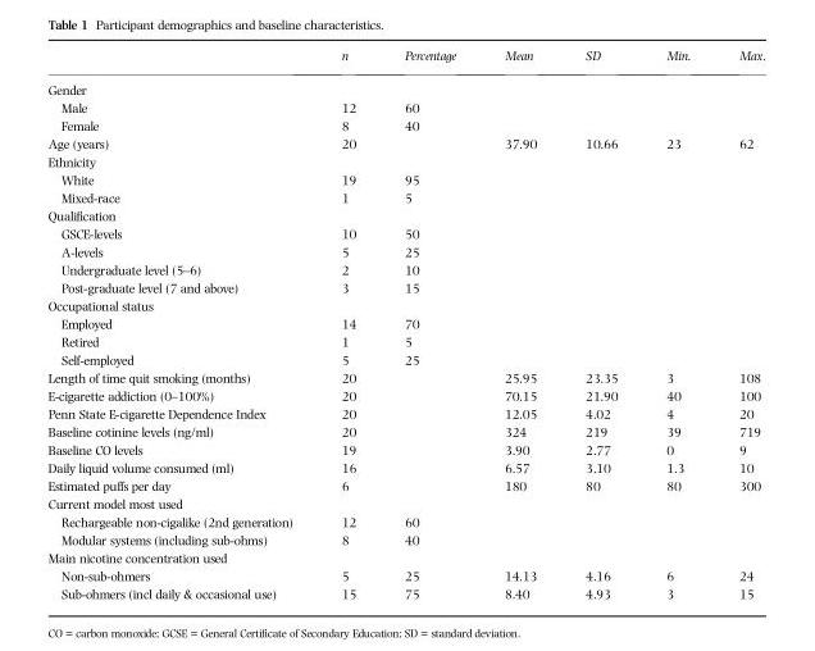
<table><thead><tr><td></td><td>n</td><td>Percentage</td><td>Mean</td><td>SD</td><td>Min.</td><td>Max.</td></tr></thead><tbody><tr><td colspan="7">Gender</td></tr><tr><td>Male</td><td>12</td><td>60</td><td></td><td></td><td></td><td></td></tr><tr><td>Female</td><td>8</td><td>40</td><td></td><td></td><td></td><td></td></tr><tr><td>Age (years)</td><td>20</td><td></td><td>37.90</td><td>10.66</td><td>23</td><td>62</td></tr><tr><td colspan="7">Ethnicity</td></tr><tr><td>White</td><td>19</td><td>95</td><td></td><td></td><td></td><td></td></tr><tr><td>Mixed-race</td><td>1</td><td>5</td><td></td><td></td><td></td><td></td></tr><tr><td colspan="7">Qualification</td></tr><tr><td>GSCE-levels</td><td>10</td><td>50</td><td></td><td></td><td></td><td></td></tr><tr><td>A-levels</td><td>5</td><td>25</td><td></td><td></td><td></td><td></td></tr><tr><td>Undergraduate level (5–6)</td><td>2</td><td>10</td><td></td><td></td><td></td><td></td></tr><tr><td>Post-graduate level (7 and above)</td><td>3</td><td>15</td><td></td><td></td><td></td><td></td></tr><tr><td colspan="7">Occupational status</td></tr><tr><td>Employed</td><td>14</td><td>70</td><td></td><td></td><td></td><td></td></tr><tr><td>Retired</td><td>1</td><td>5</td><td></td><td></td><td></td><td></td></tr><tr><td>Self-employed</td><td>5</td><td>25</td><td></td><td></td><td></td><td></td></tr><tr><td>Length of time quit smoking (months)</td><td>20</td><td></td><td>25.95</td><td>23.35</td><td>3</td><td>108</td></tr><tr><td>E-cigarette addiction (0–100%)</td><td>20</td><td></td><td>70.15</td><td>21.90</td><td>40</td><td>100</td></tr><tr><td>Penn State E-cigarette Dependence Index</td><td>20</td><td></td><td>12.05</td><td>4.02</td><td>4</td><td>20</td></tr><tr><td>Baseline cotinine levels (ng/ml)</td><td>20</td><td></td><td>324</td><td>219</td><td>39</td><td>719</td></tr><tr><td>Baseline CO levels</td><td>19</td><td></td><td>3.90</td><td>2.77</td><td>0</td><td>9</td></tr><tr><td>Daily liquid volume consumed (ml)</td><td>16</td><td></td><td>6.57</td><td>3.10</td><td>1.3</td><td>10</td></tr><tr><td>Estimated puffs per day</td><td>6</td><td></td><td>180</td><td>80</td><td>80</td><td>300</td></tr><tr><td colspan="7">Current model most used</td></tr><tr><td>Rechargeable non-cigalike (2nd generation)</td><td>12</td><td>60</td><td></td><td></td><td></td><td></td></tr><tr><td>Modular systems (including sub-ohms)</td><td>8</td><td>40</td><td></td><td></td><td></td><td></td></tr><tr><td colspan="7">Main nicotine concentration used</td></tr><tr><td>Non-sub-ohmers</td><td>5</td><td>25</td><td>14.13</td><td>4.16</td><td>6</td><td>24</td></tr><tr><td>Sub-ohmers (incl daily &amp; occasional use)</td><td>15</td><td>75</td><td>8.40</td><td>4.93</td><td>3</td><td>15</td></tr></tbody></table>